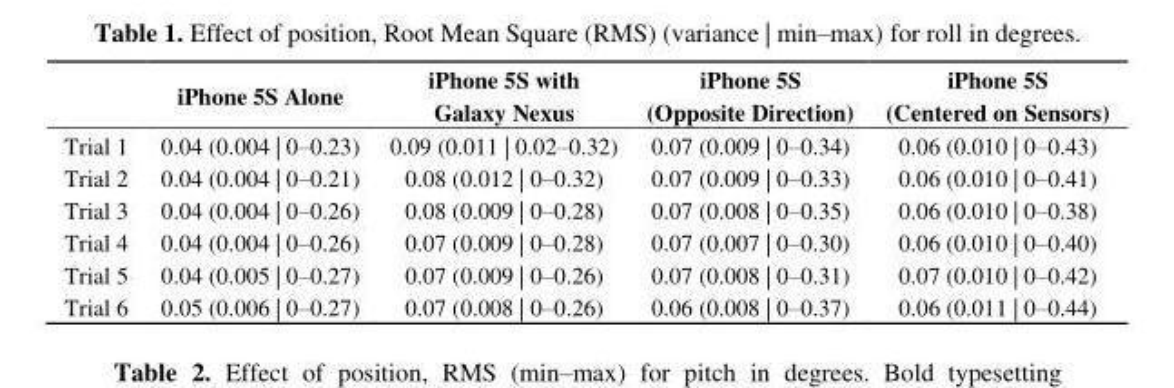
<table><thead><tr><td></td><td>iPhone 5S Alone</td><td>iPhone 5S with Galaxy Nexus</td><td>iPhone 5S (Opposite Direction)</td><td>iPhone 5S (Centered on Sensors)</td></tr></thead><tbody><tr><td>Trial 1</td><td>0.04 (0.004 | 0–0.23)</td><td>0.09 (0.011 | 0.02–0.32)</td><td>0.07 (0.009 | 0–0.34)</td><td>0.06 (0.010 | 0–0.43)</td></tr><tr><td>Trial 2</td><td>0.04 (0.004 | 0–0.21)</td><td>0.08 (0.012 | 0–0.32)</td><td>0.07 (0.009 | 0–0.33)</td><td>0.06 (0.010 | 0–0.41)</td></tr><tr><td>Trial 3</td><td>0.04 (0.004 | 0–0.26)</td><td>0.08 (0.009 | 0–0.28)</td><td>0.07 (0.008 | 0–0.35)</td><td>0.06 (0.010 | 0–0.38)</td></tr><tr><td>Trial 4</td><td>0.04 (0.004 | 0–0.26)</td><td>0.07 (0.009 | 0–0.28)</td><td>0.07 (0.007 | 0–0.30)</td><td>0.06 (0.010 | 0–0.40)</td></tr><tr><td>Trial 5</td><td>0.04 (0.005 | 0–0.27)</td><td>0.07 (0.009 | 0–0.26)</td><td>0.07 (0.008 | 0–0.31)</td><td>0.07 (0.010 | 0–0.42)</td></tr><tr><td>Trial 6</td><td>0.05 (0.006 | 0–0.27)</td><td>0.07 (0.008 | 0–0.26)</td><td>0.06 (0.008 | 0–0.37)</td><td>0.06 (0.011 | 0–0.44)</td></tr></tbody></table>